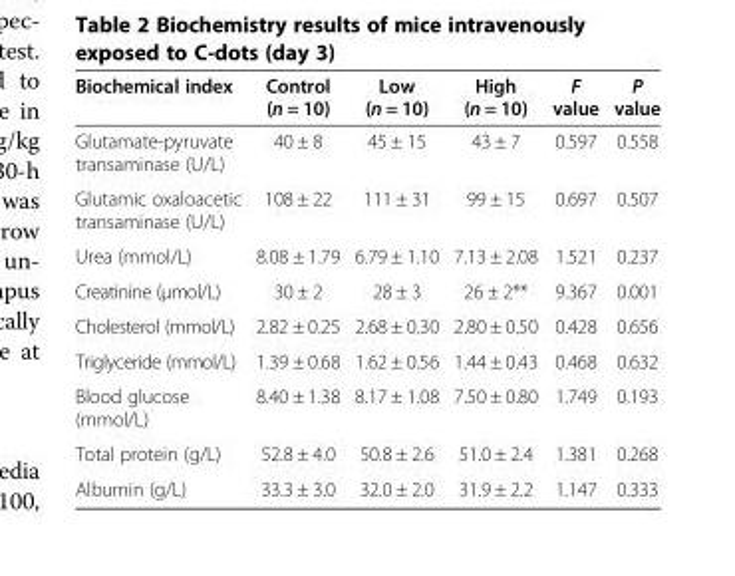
<table><thead><tr><td>Biochemical index</td><td>Control (n = 10)</td><td>Low (n = 10)</td><td>High (n = 10)</td><td>F value</td><td>P value</td></tr></thead><tbody><tr><td>Glutamate-pyruvate transaminase (U/L)</td><td>40 ± 8</td><td>45 ± 15</td><td>43 ± 7</td><td>0.597</td><td>0.558</td></tr><tr><td>Glutamic oxaloacetic transaminase (U/L)</td><td>108 ± 22</td><td>111 ± 31</td><td>99 ± 15</td><td>0.697</td><td>0.507</td></tr><tr><td>Urea (mmol/L)</td><td>8.08 ± 1.79</td><td>6.79 ± 1.10</td><td>7.13 ± 2.08</td><td>1.521</td><td>0.237</td></tr><tr><td>Creatinine (μmol/L)</td><td>30 ± 2</td><td>28 ± 3</td><td>26 ± 2**</td><td>9.367</td><td>0.001</td></tr><tr><td>Cholesterol (mmol/L)</td><td>2.82 ± 0.25</td><td>2.68 ± 0.30</td><td>2.80 ± 0.50</td><td>0.428</td><td>0.656</td></tr><tr><td>Triglyceride (mmol/L)</td><td>1.39 ± 0.68</td><td>1.62 ± 0.56</td><td>1.44 ± 0.43</td><td>0.468</td><td>0.632</td></tr><tr><td>Blood glucose (mmol/L)</td><td>8.40 ± 1.38</td><td>8.17 ± 1.08</td><td>7.50 ± 0.80</td><td>1.749</td><td>0.193</td></tr><tr><td>Total protein (g/L)</td><td>52.8 ± 4.0</td><td>50.8 ± 2.6</td><td>51.0 ± 2.4</td><td>1.381</td><td>0.268</td></tr><tr><td>Albumin (g/L)</td><td>33.3 ± 3.0</td><td>32.0 ± 2.0</td><td>31.9 ± 2.2</td><td>1.147</td><td>0.333</td></tr></tbody></table>